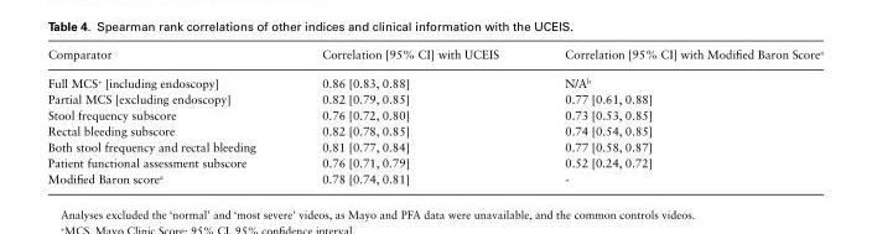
<table><thead><tr><td>Comparator</td><td>Correlation [95% CI] with UCEIS</td><td>Correlation [95% CI] with Modified Baron Score<sup>a</sup></td></tr></thead><tbody><tr><td>Full MCS<sup>+</sup> [including endoscopy]</td><td>0.86 [0.83, 0.88]</td><td>N/A<sup>b</sup></td></tr><tr><td>Partial MCS [excluding endoscopy]</td><td>0.82 [0.79, 0.85]</td><td>0.77 [0.61, 0.88]</td></tr><tr><td>Stool frequency subscore</td><td>0.76 [0.72, 0.80]</td><td>0.73 [0.53, 0.85]</td></tr><tr><td>Rectal bleeding subscore</td><td>0.82 [0.78, 0.85]</td><td>0.74 [0.54, 0.85]</td></tr><tr><td>Both stool frequency and rectal bleeding</td><td>0.81 [0.77, 0.84]</td><td>0.77 [0.58, 0.87]</td></tr><tr><td>Patient functional assessment subscore</td><td>0.76 [0.71, 0.79]</td><td>0.52 [0.24, 0.72]</td></tr><tr><td>Modified Baron score<sup>a</sup></td><td>0.78 [0.74, 0.81]</td><td>-</td></tr></tbody></table>